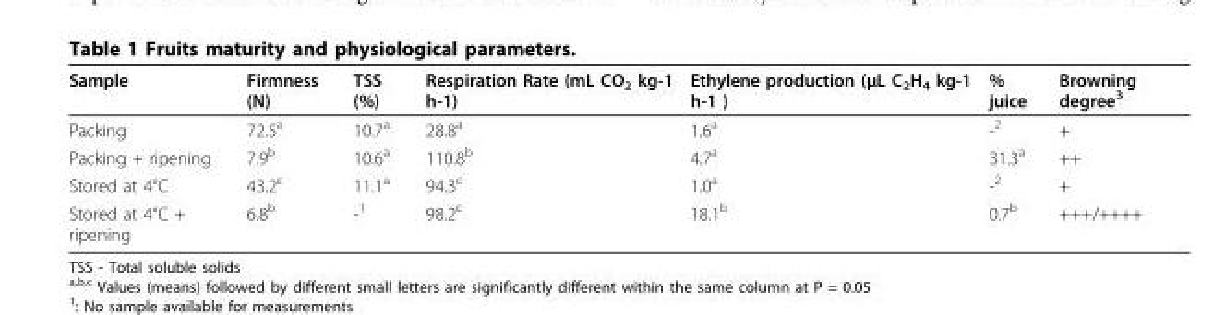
<table><thead><tr><td>Sample</td><td>Firmness (N)</td><td>TSS (%)</td><td>Respiration Rate (mL CO<sub>2</sub> kg-1 h-1)</td><td>Ethylene production (μL C<sub>2</sub>H<sub>4</sub> kg-1 h-1 )</td><td>% juice</td><td>Browning degree<sup>3</sup></td></tr></thead><tbody><tr><td>Packing</td><td>72.5<sup>a</sup></td><td>10.7<sup>a</sup></td><td>28.8<sup>a</sup></td><td>1.6<sup>a</sup></td><td>-<sup>2</sup></td><td>+</td></tr><tr><td>Packing + ripening</td><td>7.9<sup>b</sup></td><td>10.6<sup>a</sup></td><td>110.8<sup>b</sup></td><td>4.7<sup>a</sup></td><td>31.3<sup>a</sup></td><td>++</td></tr><tr><td>Stored at 4°C</td><td>43.2<sup>c</sup></td><td>11.1<sup>a</sup></td><td>94.3<sup>c</sup></td><td>1.0<sup>a</sup></td><td>-<sup>2</sup></td><td>+</td></tr><tr><td>Stored at 4°C + ripening</td><td>6.8<sup>b</sup></td><td>-<sup>1</sup></td><td>98.2<sup>c</sup></td><td>18.1<sup>b</sup></td><td>0.7<sup>b</sup></td><td>+++/++++</td></tr></tbody></table>